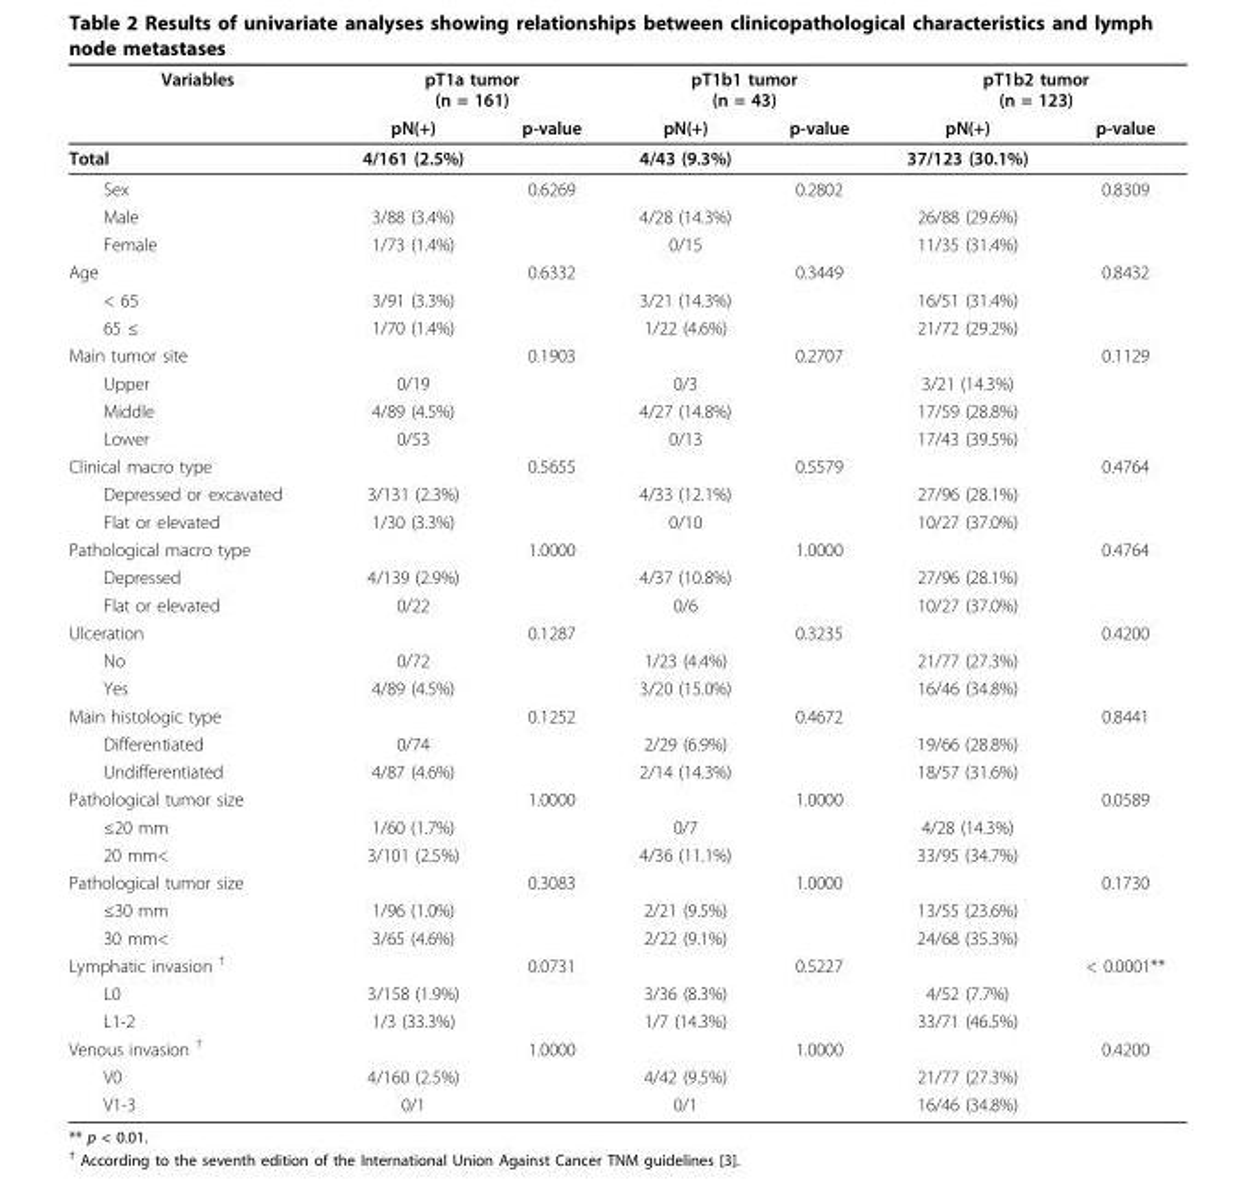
<table><thead><tr><td rowspan="2">Variables</td><td colspan="2">pT1a tumor (n = 161)</td><td colspan="2">pT1b1 tumor (n = 43)</td><td colspan="2">pT1b2 tumor (n = 123)</td></tr><tr><td>pN(+)</td><td>p-value</td><td>pN(+)</td><td>p-value</td><td>pN(+)</td><td>p-value</td></tr></thead><tbody><tr><td>Total</td><td>4/161 (2.5%)</td><td></td><td>4/43 (9.3%)</td><td></td><td>37/123 (30.1%)</td><td></td></tr><tr><td>Sex</td><td></td><td>0.6269</td><td></td><td>0.2802</td><td></td><td>0.8309</td></tr><tr><td>Male</td><td>3/88 (3.4%)</td><td></td><td>4/28 (14.3%)</td><td></td><td>26/88 (29.6%)</td><td></td></tr><tr><td>Female</td><td>1/73 (1.4%)</td><td></td><td>0/15</td><td></td><td>11/35 (31.4%)</td><td></td></tr><tr><td>Age</td><td></td><td>0.6332</td><td></td><td>0.3449</td><td></td><td>0.8432</td></tr><tr><td>&lt; 65</td><td>3/91 (3.3%)</td><td></td><td>3/21 (14.3%)</td><td></td><td>16/51 (31.4%)</td><td></td></tr><tr><td>65 ≤</td><td>1/70 (1.4%)</td><td></td><td>1/22 (4.6%)</td><td></td><td>21/72 (29.2%)</td><td></td></tr><tr><td>Main tumor site</td><td></td><td>0.1903</td><td></td><td>0.2707</td><td></td><td>0.1129</td></tr><tr><td>Upper</td><td>0/19</td><td></td><td>0/3</td><td></td><td>3/21 (14.3%)</td><td></td></tr><tr><td>Middle</td><td>4/89 (4.5%)</td><td></td><td>4/27 (14.8%)</td><td></td><td>17/59 (28.8%)</td><td></td></tr><tr><td>Lower</td><td>0/53</td><td></td><td>0/13</td><td></td><td>17/43 (39.5%)</td><td></td></tr><tr><td>Clinical macro type</td><td></td><td>0.5655</td><td></td><td>0.5579</td><td></td><td>0.4764</td></tr><tr><td>Depressed or excavated</td><td>3/131 (2.3%)</td><td></td><td>4/33 (12.1%)</td><td></td><td>27/96 (28.1%)</td><td></td></tr><tr><td>Flat or elevated</td><td>1/30 (3.3%)</td><td></td><td>0/10</td><td></td><td>10/27 (37.0%)</td><td></td></tr><tr><td>Pathological macro type</td><td></td><td>1.0000</td><td></td><td>1.0000</td><td></td><td>0.4764</td></tr><tr><td>Depressed</td><td>4/139 (2.9%)</td><td></td><td>4/37 (10.8%)</td><td></td><td>27/96 (28.1%)</td><td></td></tr><tr><td>Flat or elevated</td><td>0/22</td><td></td><td>0/6</td><td></td><td>10/27 (37.0%)</td><td></td></tr><tr><td>Ulceration</td><td></td><td>0.1287</td><td></td><td>0.3235</td><td></td><td>0.4200</td></tr><tr><td>No</td><td>0/72</td><td></td><td>1/23 (4.4%)</td><td></td><td>21/77 (27.3%)</td><td></td></tr><tr><td>Yes</td><td>4/89 (4.5%)</td><td></td><td>3/20 (15.0%)</td><td></td><td>16/46 (34.8%)</td><td></td></tr><tr><td>Main histologic type</td><td></td><td>0.1252</td><td></td><td>0.4672</td><td></td><td>0.8441</td></tr><tr><td>Differentiated</td><td>0/74</td><td></td><td>2/29 (6.9%)</td><td></td><td>19/66 (28.8%)</td><td></td></tr><tr><td>Undifferentiated</td><td>4/87 (4.6%)</td><td></td><td>2/14 (14.3%)</td><td></td><td>18/57 (31.6%)</td><td></td></tr><tr><td>Pathological tumor size</td><td></td><td>1.0000</td><td></td><td>1.0000</td><td></td><td>0.0589</td></tr><tr><td>≤20 mm</td><td>1/60 (1.7%)</td><td></td><td>0/7</td><td></td><td>4/28 (14.3%)</td><td></td></tr><tr><td>20 mm&lt;</td><td>3/101 (2.5%)</td><td></td><td>4/36 (11.1%)</td><td></td><td>33/95 (34.7%)</td><td></td></tr><tr><td>Pathological tumor size</td><td></td><td>0.3083</td><td></td><td>1.0000</td><td></td><td>0.1730</td></tr><tr><td>≤30 mm</td><td>1/96 (1.0%)</td><td></td><td>2/21 (9.5%)</td><td></td><td>13/55 (23.6%)</td><td></td></tr><tr><td>30 mm&lt;</td><td>3/65 (4.6%)</td><td></td><td>2/22 (9.1%)</td><td></td><td>24/68 (35.3%)</td><td></td></tr><tr><td>Lymphatic invasion <sup>†</sup></td><td></td><td>0.0731</td><td></td><td>0.5227</td><td></td><td>&lt; 0.0001**</td></tr><tr><td>L0</td><td>3/158 (1.9%)</td><td></td><td>3/36 (8.3%)</td><td></td><td>4/52 (7.7%)</td><td></td></tr><tr><td>L1-2</td><td>1/3 (33.3%)</td><td></td><td>1/7 (14.3%)</td><td></td><td>33/71 (46.5%)</td><td></td></tr><tr><td>Venous invasion <sup>†</sup></td><td></td><td>1.0000</td><td></td><td>1.0000</td><td></td><td>0.4200</td></tr><tr><td>V0</td><td>4/160 (2.5%)</td><td></td><td>4/42 (9.5%)</td><td></td><td>21/77 (27.3%)</td><td></td></tr><tr><td>V1-3</td><td>0/1</td><td></td><td>0/1</td><td></td><td>16/46 (34.8%)</td><td></td></tr></tbody></table>